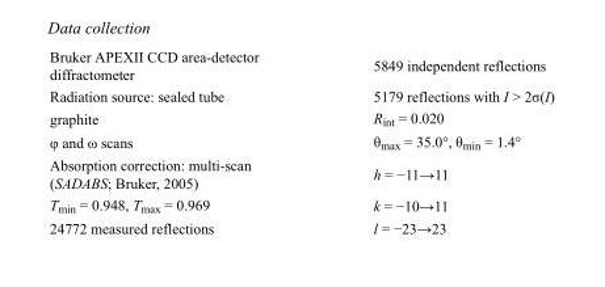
<table><tbody><tr><td>Bruker APEXII CCD area-detector diffractometer</td><td>5849 independent reflections</td></tr><tr><td>Radiation source: sealed tube</td><td>5179 reflections with I &gt; 2σ(I)</td></tr><tr><td>graphite</td><td>R<sub>int</sub> = 0.020</td></tr><tr><td>φ and ω scans</td><td>θ<sub>max</sub> = 35.0°, θ<sub>min</sub> = 1.4°</td></tr><tr><td>Absorption correction: multi-scan (SADABS; Bruker, 2005)</td><td>h = −11→11</td></tr><tr><td>T<sub>min</sub> = 0.948, T<sub>max</sub> = 0.969</td><td>k = −10→11</td></tr><tr><td>24772 measured reflections</td><td>l = −23→23</td></tr></tbody></table>